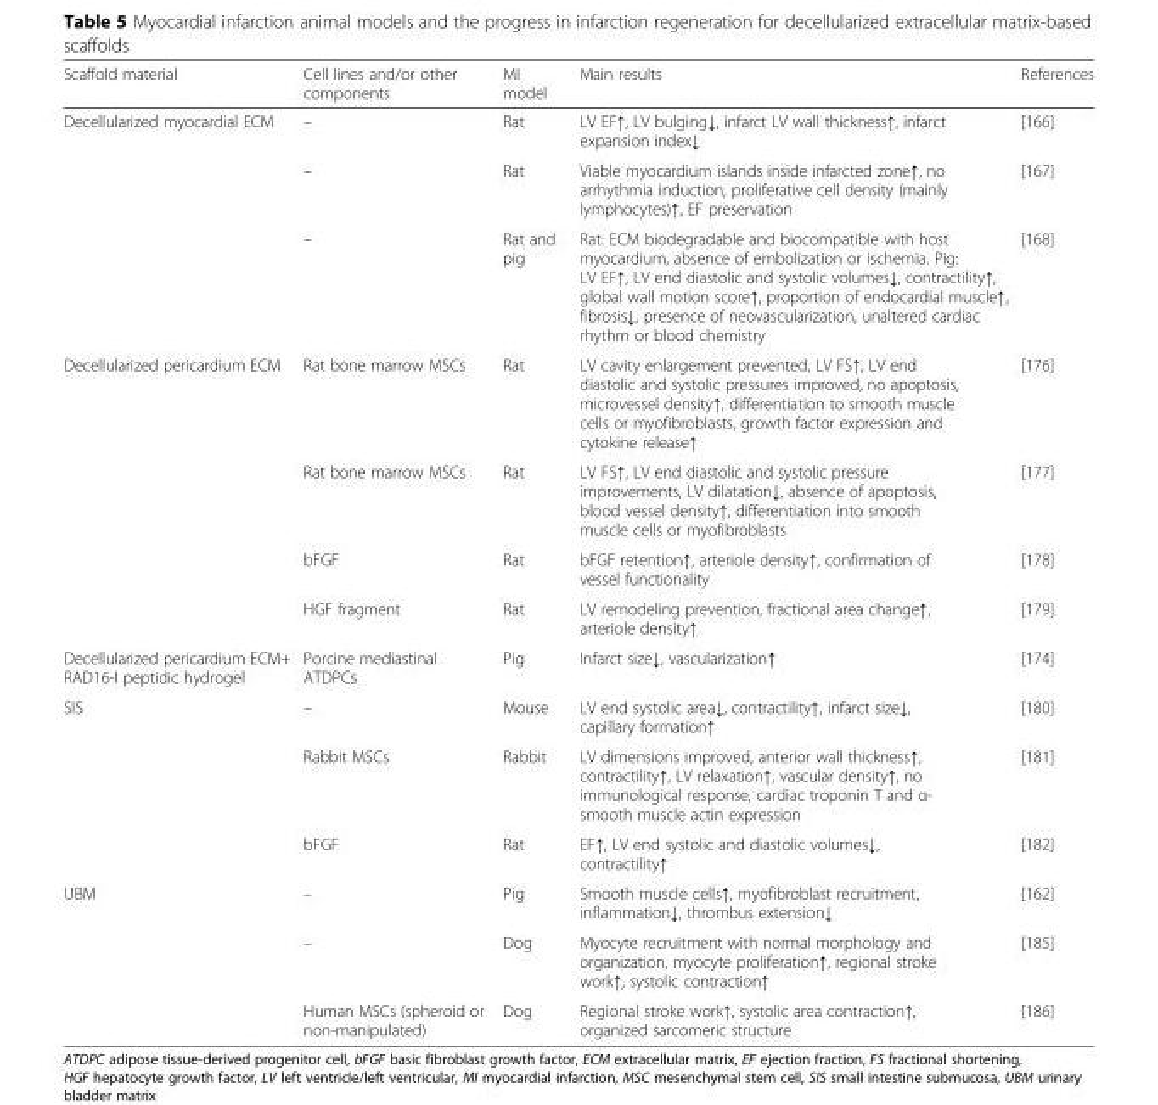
<table><thead><tr><td>Scaffold material</td><td>Cell lines and/or other components</td><td>MI model</td><td>Main results</td><td>References</td></tr></thead><tbody><tr><td rowspan="3">Decellularized myocardial ECM</td><td>–</td><td>Rat</td><td>LV EF↑, LV bulging↓, infarct LV wall thickness↑, infarct expansion index↓</td><td>[166]</td></tr><tr><td>–</td><td>Rat</td><td>Viable myocardium islands inside infarcted zone↑, no arrhythmia induction, proliferative cell density (mainly lymphocytes)↑, EF preservation</td><td>[167]</td></tr><tr><td>–</td><td>Rat and pig</td><td>Rat: ECM biodegradable and biocompatible with host myocardium, absence of embolization or ischemia. Pig: LV EF↑, LV end diastolic and systolic volumes↓, contractility↑, global wall motion score↑, proportion of endocardial muscle↑, fibrosis↓, presence of neovascularization, unaltered cardiac rhythm or blood chemistry</td><td>[168]</td></tr><tr><td rowspan="4">Decellularized pericardium ECM</td><td>Rat bone marrow MSCs</td><td>Rat</td><td>LV cavity enlargement prevented, LV FS↑, LV end diastolic and systolic pressures improved, no apoptosis, microvessel density↑, differentiation to smooth muscle cells or myofibroblasts, growth factor expression and cytokine release↑</td><td>[176]</td></tr><tr><td>Rat bone marrow MSCs</td><td>Rat</td><td>LV FS↑, LV end diastolic and systolic pressure improvements, LV dilatation↓, absence of apoptosis, blood vessel density↑, differentiation into smooth muscle cells or myofibroblasts</td><td>[177]</td></tr><tr><td>bFGF</td><td>Rat</td><td>bFGF retention↑, arteriole density↑, confirmation of vessel functionality</td><td>[178]</td></tr><tr><td>HGF fragment</td><td>Rat</td><td>LV remodeling prevention, fractional area change↑, arteriole density↑</td><td>[179]</td></tr><tr><td>Decellularized pericardium ECM+ RAD16-I peptidic hydrogel</td><td>Porcine mediastinal ATDPCs</td><td>Pig</td><td>Infarct size↓, vascularization↑</td><td>[174]</td></tr><tr><td rowspan="3">SIS</td><td>–</td><td>Mouse</td><td>LV end systolic area↓, contractility↑, infarct size↓, capillary formation↑</td><td>[180]</td></tr><tr><td>Rabbit MSCs</td><td>Rabbit</td><td>LV dimensions improved, anterior wall thickness↑, contractility↑, LV relaxation↑, vascular density↑, no immunological response, cardiac troponin T and α- smooth muscle actin expression</td><td>[181]</td></tr><tr><td>bFGF</td><td>Rat</td><td>EF↑, LV end systolic and diastolic volumes↓, contractility↑</td><td>[182]</td></tr><tr><td rowspan="3">UBM</td><td>–</td><td>Pig</td><td>Smooth muscle cells↑, myofibroblast recruitment, inflammation↓, thrombus extension↓</td><td>[162]</td></tr><tr><td>–</td><td>Dog</td><td>Myocyte recruitment with normal morphology and organization, myocyte proliferation↑, regional stroke work↑, systolic contraction↑</td><td>[185]</td></tr><tr><td>Human MSCs (spheroid or non-manipulated)</td><td>Dog</td><td>Regional stroke work↑, systolic area contraction↑, organized sarcomeric structure</td><td>[186]</td></tr></tbody></table>